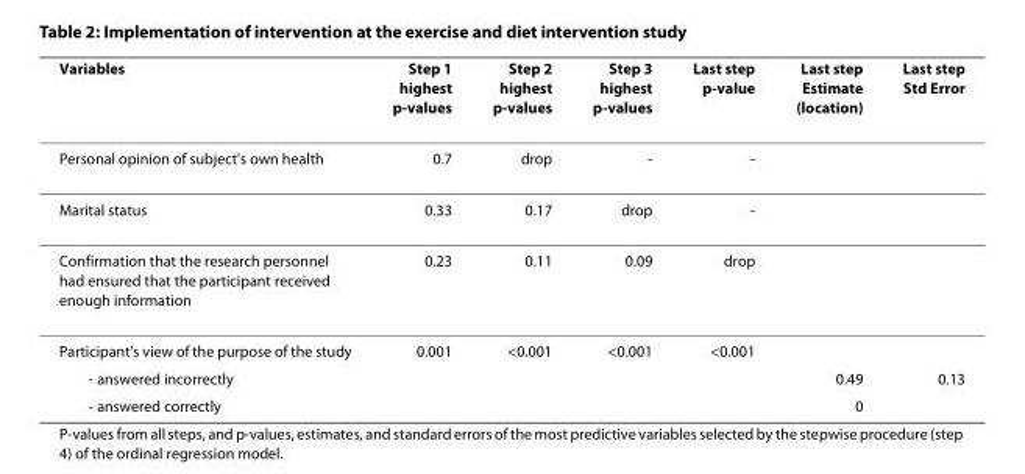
<table><thead><tr><td>Variables</td><td>Step 1 highest p-values</td><td>Step 2 highest p-values</td><td>Step 3 highest p-values</td><td>Last step p-value</td><td>Last step Estimate (location)</td><td>Last step Std Error</td></tr></thead><tbody><tr><td>Personal opinion of subject&#x27;s own health</td><td>0.7</td><td>drop</td><td>-</td><td>-</td><td></td><td></td></tr><tr><td>Marital status</td><td>0.33</td><td>0.17</td><td>drop</td><td>-</td><td></td><td></td></tr><tr><td>Confirmation that the research personnel had ensured that the participant received enough information</td><td>0.23</td><td>0.11</td><td>0.09</td><td>drop</td><td></td><td></td></tr><tr><td>Participant&#x27;s view of the purpose of the study</td><td>0.001</td><td>&lt;0.001</td><td>&lt;0.001</td><td>&lt;0.001</td><td></td><td></td></tr><tr><td>- answered incorrectly</td><td></td><td></td><td></td><td></td><td>0.49</td><td>0.13</td></tr><tr><td>- answered correctly</td><td></td><td></td><td></td><td></td><td>0</td><td></td></tr></tbody></table>